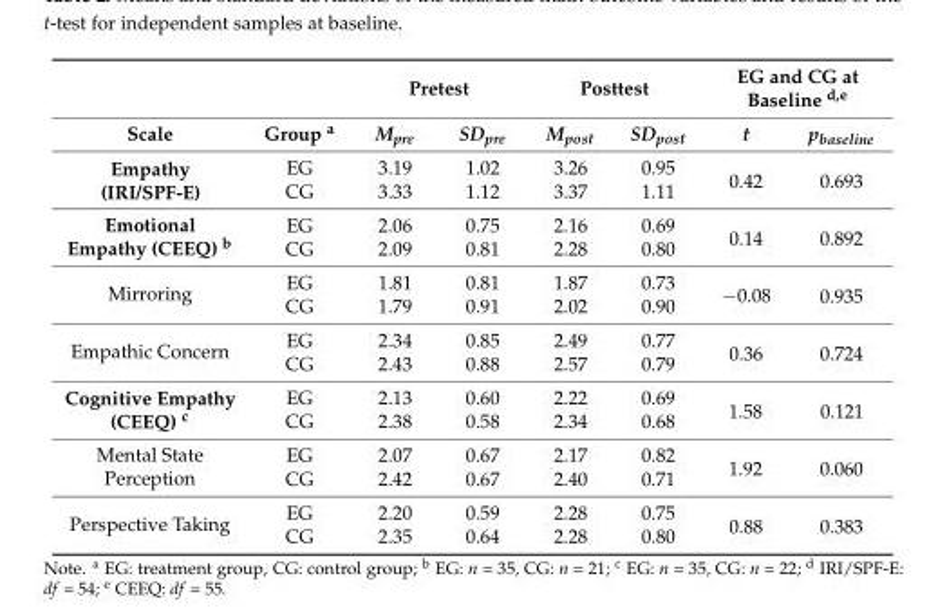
<table><thead><tr><td rowspan="2">Scale</td><td rowspan="2">Group <sup>a</sup></td><td colspan="2">Pretest</td><td colspan="2">Posttest</td><td colspan="2">EG and CG at Baseline <sup>d,e</sup></td></tr><tr><td>M<sub>pre</sub></td><td>SD<sub>pre</sub></td><td>M<sub>post</sub></td><td>SD<sub>post</sub></td><td>t</td><td>p<sub>baseline</sub></td></tr></thead><tbody><tr><td rowspan="2">Empathy (IRI/SPF-E)</td><td>EG</td><td>3.19</td><td>1.02</td><td>3.26</td><td>0.95</td><td rowspan="2">0.42</td><td rowspan="2">0.693</td></tr><tr><td>CG</td><td>3.33</td><td>1.12</td><td>3.37</td><td>1.11</td></tr><tr><td rowspan="2">Emotional Empathy (CEEQ) <sup>b</sup></td><td>EG</td><td>2.06</td><td>0.75</td><td>2.16</td><td>0.69</td><td rowspan="2">0.14</td><td rowspan="2">0.892</td></tr><tr><td>CG</td><td>2.09</td><td>0.81</td><td>2.28</td><td>0.80</td></tr><tr><td rowspan="2">Mirroring</td><td>EG</td><td>1.81</td><td>0.81</td><td>1.87</td><td>0.73</td><td rowspan="2">−0.08</td><td rowspan="2">0.935</td></tr><tr><td>CG</td><td>1.79</td><td>0.91</td><td>2.02</td><td>0.90</td></tr><tr><td rowspan="2">Empathic Concern</td><td>EG</td><td>2.34</td><td>0.85</td><td>2.49</td><td>0.77</td><td rowspan="2">0.36</td><td rowspan="2">0.724</td></tr><tr><td>CG</td><td>2.43</td><td>0.88</td><td>2.57</td><td>0.79</td></tr><tr><td rowspan="2">Cognitive Empathy (CEEQ) <sup>c</sup></td><td>EG</td><td>2.13</td><td>0.60</td><td>2.22</td><td>0.69</td><td rowspan="2">1.58</td><td rowspan="2">0.121</td></tr><tr><td>CG</td><td>2.38</td><td>0.58</td><td>2.34</td><td>0.68</td></tr><tr><td rowspan="2">Mental State Perception</td><td>EG</td><td>2.07</td><td>0.67</td><td>2.17</td><td>0.82</td><td rowspan="2">1.92</td><td rowspan="2">0.060</td></tr><tr><td>CG</td><td>2.42</td><td>0.67</td><td>2.40</td><td>0.71</td></tr><tr><td rowspan="2">Perspective Taking</td><td>EG</td><td>2.20</td><td>0.59</td><td>2.28</td><td>0.75</td><td rowspan="2">0.88</td><td rowspan="2">0.383</td></tr><tr><td>CG</td><td>2.35</td><td>0.64</td><td>2.28</td><td>0.80</td></tr></tbody></table>